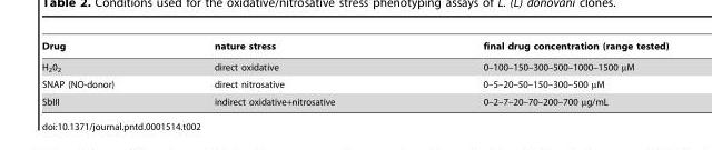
<table><thead><tr><td>Drug</td><td>nature stress</td><td>final drug concentration (range tested)</td></tr></thead><tbody><tr><td>H<sub>2</sub>0<sub>2</sub></td><td>direct oxidative</td><td>0–100–150–300–500–1000–1500 µM</td></tr><tr><td>SNAP (NO-donor)</td><td>direct nitrosative</td><td>0–5–20–50–150–300–500 µM</td></tr><tr><td>SbIII</td><td>indirect oxidative+nitrosative</td><td>0–2–7–20–70–200–700 µg/mL</td></tr></tbody></table>